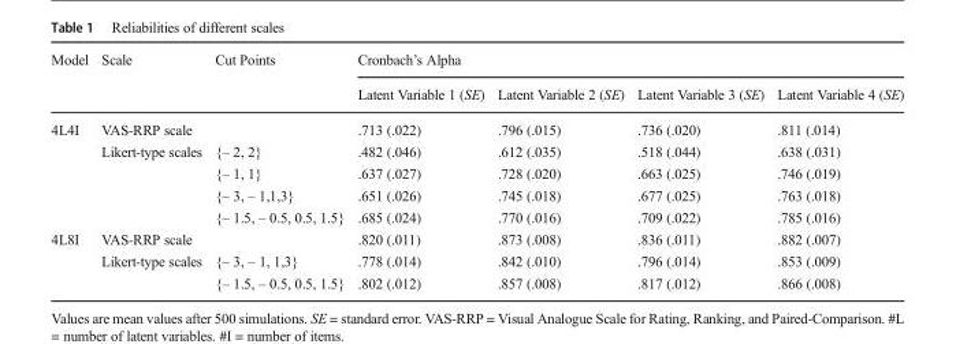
<table><thead><tr><td rowspan="2">Model</td><td rowspan="2">Scale</td><td rowspan="2">Cut Points</td><td colspan="4">Cronbach’s Alpha</td></tr><tr><td>Latent Variable 1 (SE)</td><td>Latent Variable 2 (SE)</td><td>Latent Variable 3 (SE)</td><td>Latent Variable 4 (SE)</td></tr></thead><tbody><tr><td rowspan="5">4L4I</td><td>VAS-RRP scale</td><td></td><td>.713 (.022)</td><td>.796 (.015)</td><td>.736 (.020)</td><td>.811 (.014)</td></tr><tr><td rowspan="4">Likert-type scales</td><td>{– 2, 2}</td><td>.482 (.046)</td><td>.612 (.035)</td><td>.518 (.044)</td><td>.638 (.031)</td></tr><tr><td>{– 1, 1}</td><td>.637 (.027)</td><td>.728 (.020)</td><td>.663 (.025)</td><td>.746 (.019)</td></tr><tr><td>{– 3, – 1,1,3}</td><td>.651 (.026)</td><td>.745 (.018)</td><td>.677 (.025)</td><td>.763 (.018)</td></tr><tr><td>{– 1.5, – 0.5, 0.5, 1.5}</td><td>.685 (.024)</td><td>.770 (.016)</td><td>.709 (.022)</td><td>.785 (.016)</td></tr><tr><td rowspan="3">4L8I</td><td>VAS-RRP scale</td><td></td><td>.820 (.011)</td><td>.873 (.008)</td><td>.836 (.011)</td><td>.882 (.007)</td></tr><tr><td rowspan="2">Likert-type scales</td><td>{– 3, – 1, 1,3}</td><td>.778 (.014)</td><td>.842 (.010)</td><td>.796 (.014)</td><td>.853 (.009)</td></tr><tr><td>{– 1.5, – 0.5, 0.5, 1.5}</td><td>.802 (.012)</td><td>.857 (.008)</td><td>.817 (.012)</td><td>.866 (.008)</td></tr></tbody></table>